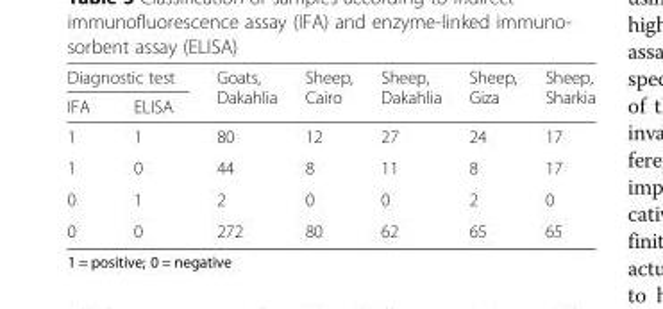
<table><thead><tr><td colspan="2">Diagnostic test</td><td rowspan="2">Goats, Dakahlia</td><td rowspan="2">Sheep, Cairo</td><td rowspan="2">Sheep, Dakahlia</td><td rowspan="2">Sheep, Giza</td><td rowspan="2">Sheep, Sharkia</td></tr><tr><td>IFA</td><td>ELISA</td></tr></thead><tbody><tr><td>1</td><td>1</td><td>80</td><td>12</td><td>27</td><td>24</td><td>17</td></tr><tr><td>1</td><td>0</td><td>44</td><td>8</td><td>11</td><td>8</td><td>17</td></tr><tr><td>0</td><td>1</td><td>2</td><td>0</td><td>0</td><td>2</td><td>0</td></tr><tr><td>0</td><td>0</td><td>272</td><td>80</td><td>62</td><td>65</td><td>65</td></tr></tbody></table>